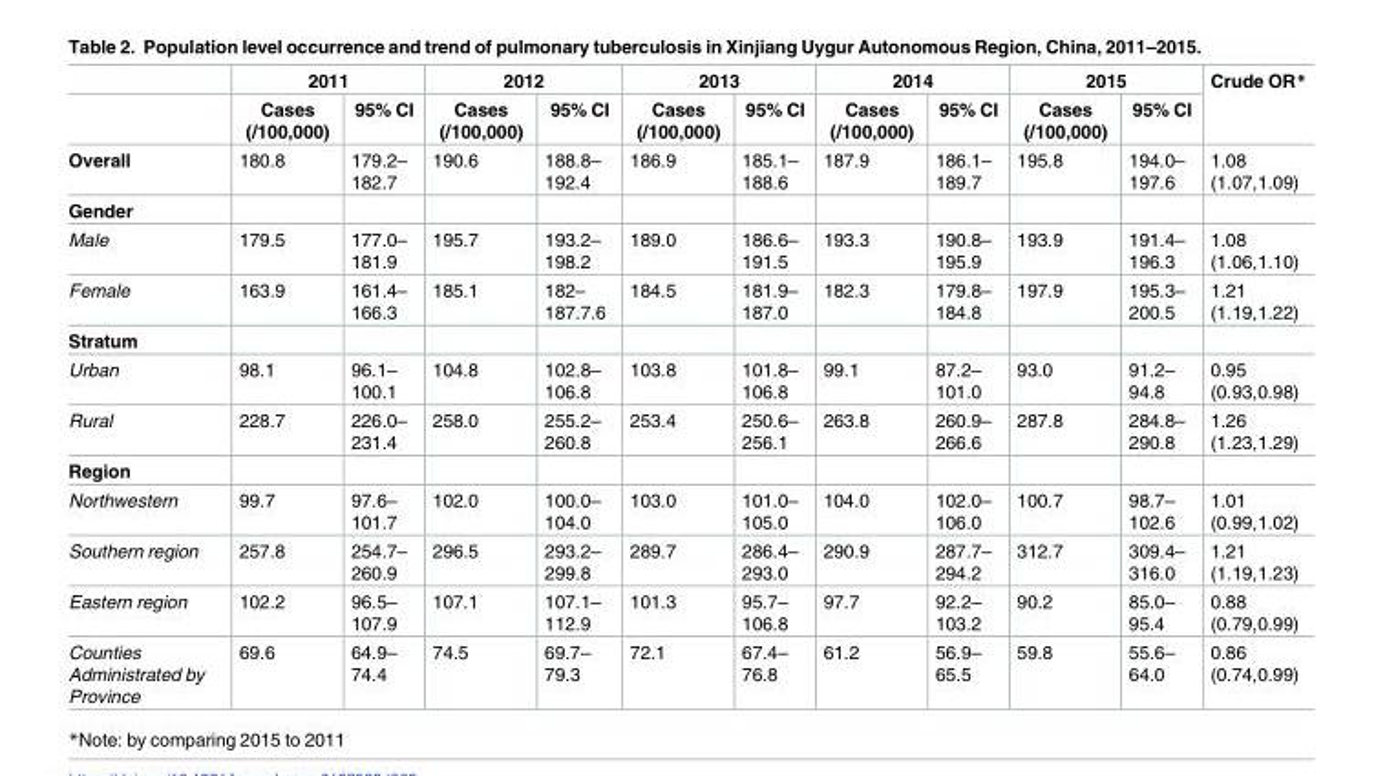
<table><thead><tr><td rowspan="2"></td><td colspan="2">2011</td><td colspan="2">2012</td><td colspan="2">2013</td><td colspan="2">2014</td><td colspan="2">2015</td><td rowspan="2">Crude OR*</td></tr><tr><td>Cases (/100,000)</td><td>95% CI</td><td>Cases (/100,000)</td><td>95% CI</td><td>Cases (/100,000)</td><td>95% CI</td><td>Cases (/100,000)</td><td>95% CI</td><td>Cases (/100,000)</td><td>95% CI</td></tr></thead><tbody><tr><td>Overall</td><td>180.8</td><td>179.2– 182.7</td><td>190.6</td><td>188.8– 192.4</td><td>186.9</td><td>185.1– 188.6</td><td>187.9</td><td>186.1– 189.7</td><td>195.8</td><td>194.0– 197.6</td><td>1.08 (1.07,1.09)</td></tr><tr><td colspan="12">Gender</td></tr><tr><td>Male</td><td>179.5</td><td>177.0– 181.9</td><td>195.7</td><td>193.2– 198.2</td><td>189.0</td><td>186.6– 191.5</td><td>193.3</td><td>190.8– 195.9</td><td>193.9</td><td>191.4– 196.3</td><td>1.08 (1.06,1.10)</td></tr><tr><td>Female</td><td>163.9</td><td>161.4– 166.3</td><td>185.1</td><td>182– 187.7.6</td><td>184.5</td><td>181.9– 187.0</td><td>182.3</td><td>179.8– 184.8</td><td>197.9</td><td>195.3– 200.5</td><td>1.21 (1.19,1.22)</td></tr><tr><td colspan="12">Stratum</td></tr><tr><td>Urban</td><td>98.1</td><td>96.1– 100.1</td><td>104.8</td><td>102.8– 106.8</td><td>103.8</td><td>101.8– 106.8</td><td>99.1</td><td>87.2– 101.0</td><td>93.0</td><td>91.2– 94.8</td><td>0.95 (0.93,0.98)</td></tr><tr><td>Rural</td><td>228.7</td><td>226.0– 231.4</td><td>258.0</td><td>255.2– 260.8</td><td>253.4</td><td>250.6– 256.1</td><td>263.8</td><td>260.9– 266.6</td><td>287.8</td><td>284.8– 290.8</td><td>1.26 (1.23,1.29)</td></tr><tr><td colspan="12">Region</td></tr><tr><td>Northwestern</td><td>99.7</td><td>97.6– 101.7</td><td>102.0</td><td>100.0– 104.0</td><td>103.0</td><td>101.0– 105.0</td><td>104.0</td><td>102.0– 106.0</td><td>100.7</td><td>98.7– 102.6</td><td>1.01 (0.99,1.02)</td></tr><tr><td>Southern region</td><td>257.8</td><td>254.7– 260.9</td><td>296.5</td><td>293.2– 299.8</td><td>289.7</td><td>286.4– 293.0</td><td>290.9</td><td>287.7– 294.2</td><td>312.7</td><td>309.4– 316.0</td><td>1.21 (1.19,1.23)</td></tr><tr><td>Eastern region</td><td>102.2</td><td>96.5– 107.9</td><td>107.1</td><td>107.1– 112.9</td><td>101.3</td><td>95.7– 106.8</td><td>97.7</td><td>92.2– 103.2</td><td>90.2</td><td>85.0– 95.4</td><td>0.88 (0.79,0.99)</td></tr><tr><td>Counties Administrated by Province</td><td>69.6</td><td>64.9– 74.4</td><td>74.5</td><td>69.7– 79.3</td><td>72.1</td><td>67.4– 76.8</td><td>61.2</td><td>56.9– 65.5</td><td>59.8</td><td>55.6– 64.0</td><td>0.86 (0.74,0.99)</td></tr></tbody></table>